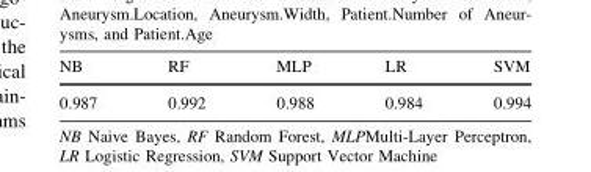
<table><thead><tr><td>NB</td><td>RF</td><td>MLP</td><td>LR</td><td>SVM</td></tr></thead><tbody><tr><td>0.987</td><td>0.992</td><td>0.988</td><td>0.984</td><td>0.994</td></tr></tbody></table>